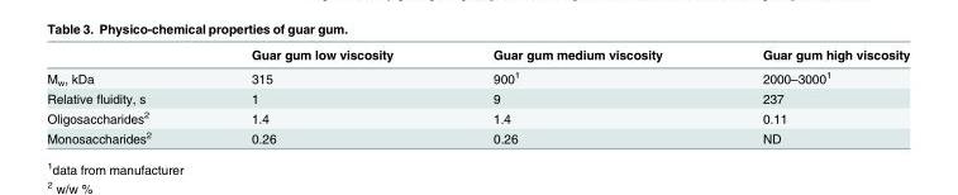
<table><thead><tr><td></td><td>Guar gum low viscosity</td><td>Guar gum medium viscosity</td><td>Guar gum high viscosity</td></tr></thead><tbody><tr><td>M<sub>w</sub>, kDa</td><td>315</td><td>900<sup>1</sup></td><td>2000–3000<sup>1</sup></td></tr><tr><td>Relative fluidity, s</td><td>1</td><td>9</td><td>237</td></tr><tr><td>Oligosaccharides<sup>2</sup></td><td>1.4</td><td>1.4</td><td>0.11</td></tr><tr><td>Monosaccharides<sup>2</sup></td><td>0.26</td><td>0.26</td><td>ND</td></tr></tbody></table>